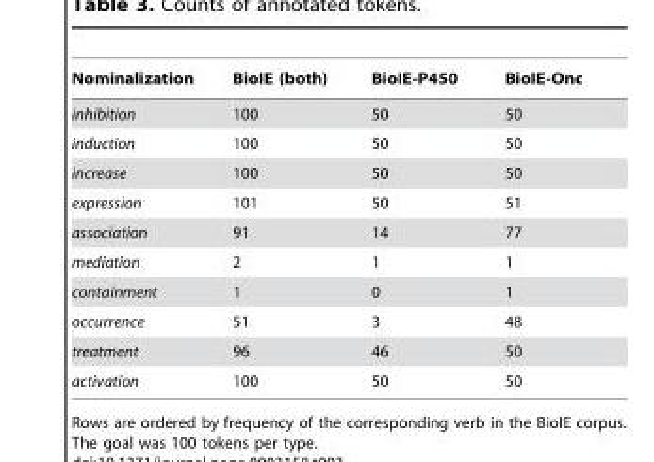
<table><thead><tr><td>Nominalization</td><td>BioIE (both)</td><td>BioIE-P450</td><td>BioIE-Onc</td></tr></thead><tbody><tr><td>inhibition</td><td>100</td><td>50</td><td>50</td></tr><tr><td>induction</td><td>100</td><td>50</td><td>50</td></tr><tr><td>increase</td><td>100</td><td>50</td><td>50</td></tr><tr><td>expression</td><td>101</td><td>50</td><td>51</td></tr><tr><td>association</td><td>91</td><td>14</td><td>77</td></tr><tr><td>mediation</td><td>2</td><td>1</td><td>1</td></tr><tr><td>containment</td><td>1</td><td>0</td><td>1</td></tr><tr><td>occurrence</td><td>51</td><td>3</td><td>48</td></tr><tr><td>treatment</td><td>96</td><td>46</td><td>50</td></tr><tr><td>activation</td><td>100</td><td>50</td><td>50</td></tr></tbody></table>